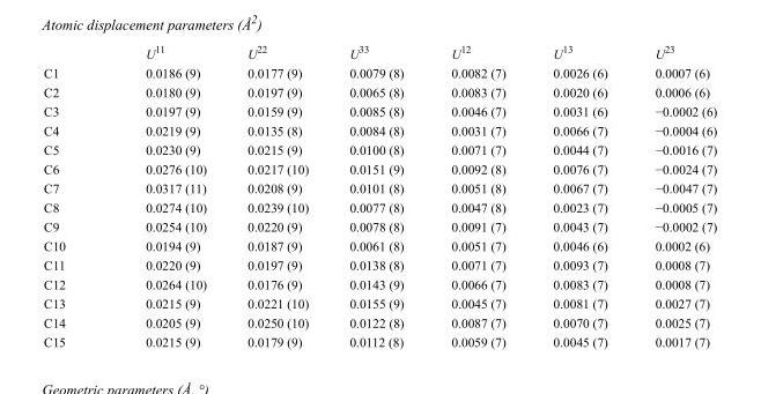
<table><thead><tr><td></td><td>U<sup>11</sup></td><td>U<sup>22</sup></td><td>U<sup>33</sup></td><td>U<sup>12</sup></td><td>U<sup>13</sup></td><td>U<sup>23</sup></td></tr></thead><tbody><tr><td>C1</td><td>0.0186 (9)</td><td>0.0177 (9)</td><td>0.0079 (8)</td><td>0.0082 (7)</td><td>0.0026 (6)</td><td>0.0007 (6)</td></tr><tr><td>C2</td><td>0.0180 (9)</td><td>0.0197 (9)</td><td>0.0065 (8)</td><td>0.0083 (7)</td><td>0.0020 (6)</td><td>0.0006 (6)</td></tr><tr><td>C3</td><td>0.0197 (9)</td><td>0.0159 (9)</td><td>0.0085 (8)</td><td>0.0046 (7)</td><td>0.0031 (6)</td><td>−0.0002 (6)</td></tr><tr><td>C4</td><td>0.0219 (9)</td><td>0.0135 (8)</td><td>0.0084 (8)</td><td>0.0031 (7)</td><td>0.0066 (7)</td><td>−0.0004 (6)</td></tr><tr><td>C5</td><td>0.0230 (9)</td><td>0.0215 (9)</td><td>0.0100 (8)</td><td>0.0071 (7)</td><td>0.0044 (7)</td><td>−0.0016 (7)</td></tr><tr><td>C6</td><td>0.0276 (10)</td><td>0.0217 (10)</td><td>0.0151 (9)</td><td>0.0092 (8)</td><td>0.0076 (7)</td><td>−0.0024 (7)</td></tr><tr><td>C7</td><td>0.0317 (11)</td><td>0.0208 (9)</td><td>0.0101 (8)</td><td>0.0051 (8)</td><td>0.0067 (7)</td><td>−0.0047 (7)</td></tr><tr><td>C8</td><td>0.0274 (10)</td><td>0.0239 (10)</td><td>0.0077 (8)</td><td>0.0047 (8)</td><td>0.0023 (7)</td><td>−0.0005 (7)</td></tr><tr><td>C9</td><td>0.0254 (10)</td><td>0.0220 (9)</td><td>0.0078 (8)</td><td>0.0091 (7)</td><td>0.0043 (7)</td><td>−0.0002 (7)</td></tr><tr><td>C10</td><td>0.0194 (9)</td><td>0.0187 (9)</td><td>0.0061 (8)</td><td>0.0051 (7)</td><td>0.0046 (6)</td><td>0.0002 (6)</td></tr><tr><td>C11</td><td>0.0220 (9)</td><td>0.0197 (9)</td><td>0.0138 (8)</td><td>0.0071 (7)</td><td>0.0093 (7)</td><td>0.0008 (7)</td></tr><tr><td>C12</td><td>0.0264 (10)</td><td>0.0176 (9)</td><td>0.0143 (9)</td><td>0.0066 (7)</td><td>0.0083 (7)</td><td>0.0008 (7)</td></tr><tr><td>C13</td><td>0.0215 (9)</td><td>0.0221 (10)</td><td>0.0155 (9)</td><td>0.0045 (7)</td><td>0.0081 (7)</td><td>0.0027 (7)</td></tr><tr><td>C14</td><td>0.0205 (9)</td><td>0.0250 (10)</td><td>0.0122 (8)</td><td>0.0087 (7)</td><td>0.0070 (7)</td><td>0.0025 (7)</td></tr><tr><td>C15</td><td>0.0215 (9)</td><td>0.0179 (9)</td><td>0.0112 (8)</td><td>0.0059 (7)</td><td>0.0045 (7)</td><td>0.0017 (7)</td></tr></tbody></table>